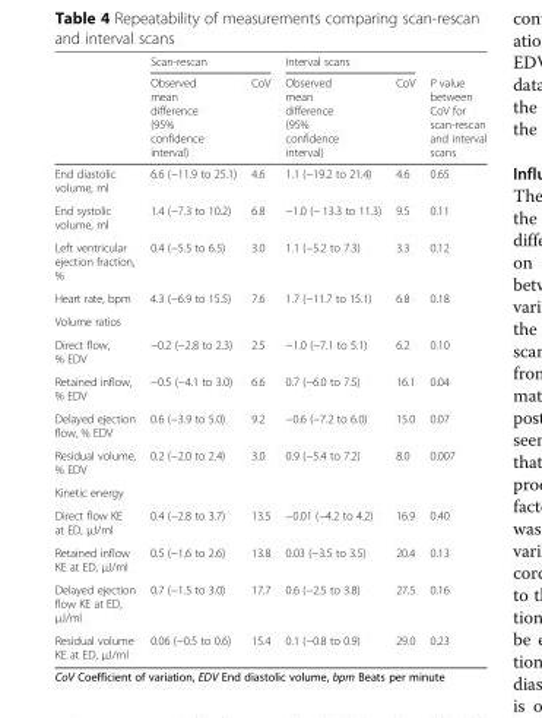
<table><thead><tr><td rowspan="2"></td><td colspan="2">Scan-rescan</td><td colspan="2">Interval scans</td><td rowspan="2">P value between CoV for scan-rescan and interval scans</td></tr><tr><td>Observed mean difference (95% confidence interval)</td><td>CoV</td><td>Observed mean difference (95% confidence interval)</td><td>CoV</td></tr></thead><tbody><tr><td>End diastolic volume, ml</td><td>6.6 (−11.9 to 25.1)</td><td>4.6</td><td>1.1 (−19.2 to 21.4)</td><td>4.6</td><td>0.65</td></tr><tr><td>End systolic volume, ml</td><td>1.4 (−7.3 to 10.2)</td><td>6.8</td><td>−1.0 (− 13.3 to 11.3)</td><td>9.5</td><td>0.11</td></tr><tr><td>Left ventricular ejection fraction, %</td><td>0.4 (−5.5 to 6.5)</td><td>3.0</td><td>1.1 (−5.2 to 7.3)</td><td>3.3</td><td>0.12</td></tr><tr><td>Heart rate, bpm</td><td>4.3 (−6.9 to 15.5)</td><td>7.6</td><td>1.7 (−11.7 to 15.1)</td><td>6.8</td><td>0.18</td></tr><tr><td colspan="6">Volume ratios</td></tr><tr><td>Direct flow, % EDV</td><td>−0.2 (−2.8 to 2.3)</td><td>2.5</td><td>−1.0 (−7.1 to 5.1)</td><td>6.2</td><td>0.10</td></tr><tr><td>Retained inflow, % EDV</td><td>−0.5 (−4.1 to 3.0)</td><td>6.6</td><td>0.7 (−6.0 to 7.5)</td><td>16.1</td><td>0.04</td></tr><tr><td>Delayed ejection flow, % EDV</td><td>0.6 (−3.9 to 5.0)</td><td>9.2</td><td>−0.6 (−7.2 to 6.0)</td><td>15.0</td><td>0.07</td></tr><tr><td>Residual volume, % EDV</td><td>0.2 (−2.0 to 2.4)</td><td>3.0</td><td>0.9 (−5.4 to 7.2)</td><td>8.0</td><td>0.007</td></tr><tr><td colspan="6">Kinetic energy</td></tr><tr><td>Direct flow KE at ED, μJ/ml</td><td>0.4 (−2.8 to 3.7)</td><td>13.5</td><td>−0.01 (−4.2 to 4.2)</td><td>16.9</td><td>0.40</td></tr><tr><td>Retained inflow KE at ED, μJ/ml</td><td>0.5 (−1.6 to 2.6)</td><td>13.8</td><td>0.03 (−3.5 to 3.5)</td><td>20.4</td><td>0.13</td></tr><tr><td>Delayed ejection flow KE at ED, μJ/ml</td><td>0.7 (−1.5 to 3.0)</td><td>17.7</td><td>0.6 (−2.5 to 3.8)</td><td>27.5</td><td>0.16</td></tr><tr><td>Residual volume KE at ED, μJ/ml</td><td>0.06 (−0.5 to 0.6)</td><td>15.4</td><td>0.1 (−0.8 to 0.9)</td><td>29.0</td><td>0.23</td></tr></tbody></table>